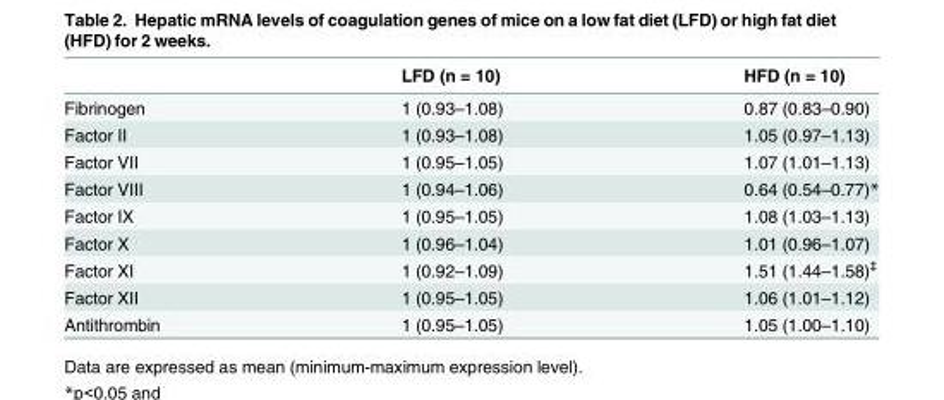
<table><thead><tr><td></td><td>LFD (n = 10)</td><td>HFD (n = 10)</td></tr></thead><tbody><tr><td>Fibrinogen</td><td>1 (0.93–1.08)</td><td>0.87 (0.83–0.90)</td></tr><tr><td>Factor II</td><td>1 (0.93–1.08)</td><td>1.05 (0.97–1.13)</td></tr><tr><td>Factor VII</td><td>1 (0.95–1.05)</td><td>1.07 (1.01–1.13)</td></tr><tr><td>Factor VIII</td><td>1 (0.94–1.06)</td><td>0.64 (0.54–0.77)*</td></tr><tr><td>Factor IX</td><td>1 (0.95–1.05)</td><td>1.08 (1.03–1.13)</td></tr><tr><td>Factor X</td><td>1 (0.96–1.04)</td><td>1.01 (0.96–1.07)</td></tr><tr><td>Factor XI</td><td>1 (0.92–1.09)</td><td>1.51 (1.44–1.58)<sup>‡</sup></td></tr><tr><td>Factor XII</td><td>1 (0.95–1.05)</td><td>1.06 (1.01–1.12)</td></tr><tr><td>Antithrombin</td><td>1 (0.95–1.05)</td><td>1.05 (1.00–1.10)</td></tr></tbody></table>